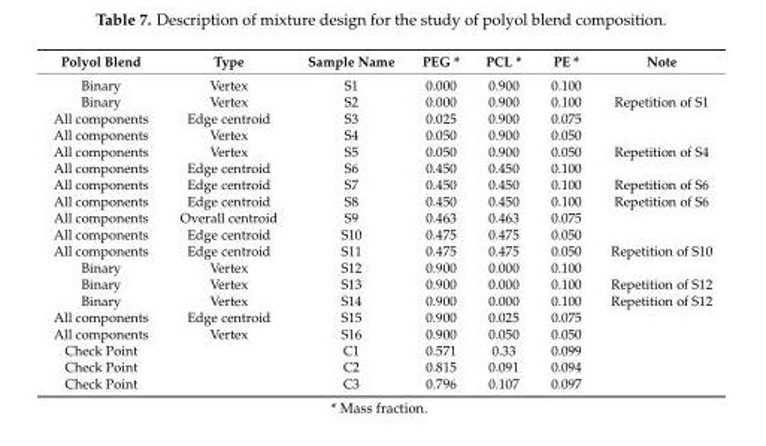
<table><thead><tr><td>Polyol Blend</td><td>Type</td><td>Sample Name</td><td>PEG *</td><td>PCL *</td><td>PE *</td><td>Note</td></tr></thead><tbody><tr><td>Binary</td><td>Vertex</td><td>S1</td><td>0.000</td><td>0.900</td><td>0.100</td><td></td></tr><tr><td>Binary</td><td>Vertex</td><td>S2</td><td>0.000</td><td>0.900</td><td>0.100</td><td>Repetition of S1</td></tr><tr><td>All components</td><td>Edge centroid</td><td>S3</td><td>0.025</td><td>0.900</td><td>0.075</td><td></td></tr><tr><td>All components</td><td>Vertex</td><td>S4</td><td>0.050</td><td>0.900</td><td>0.050</td><td></td></tr><tr><td>All components</td><td>Vertex</td><td>S5</td><td>0.050</td><td>0.900</td><td>0.050</td><td>Repetition of S4</td></tr><tr><td>All components</td><td>Edge centroid</td><td>S6</td><td>0.450</td><td>0.450</td><td>0.100</td><td></td></tr><tr><td>All components</td><td>Edge centroid</td><td>S7</td><td>0.450</td><td>0.450</td><td>0.100</td><td>Repetition of S6</td></tr><tr><td>All components</td><td>Edge centroid</td><td>S8</td><td>0.450</td><td>0.450</td><td>0.100</td><td>Repetition of S6</td></tr><tr><td>All components</td><td>Overall centroid</td><td>S9</td><td>0.463</td><td>0.463</td><td>0.075</td><td></td></tr><tr><td>All components</td><td>Edge centroid</td><td>S10</td><td>0.475</td><td>0.475</td><td>0.050</td><td></td></tr><tr><td>All components</td><td>Edge centroid</td><td>S11</td><td>0.475</td><td>0.475</td><td>0.050</td><td>Repetition of S10</td></tr><tr><td>Binary</td><td>Vertex</td><td>S12</td><td>0.900</td><td>0.000</td><td>0.100</td><td></td></tr><tr><td>Binary</td><td>Vertex</td><td>S13</td><td>0.900</td><td>0.000</td><td>0.100</td><td>Repetition of S12</td></tr><tr><td>Binary</td><td>Vertex</td><td>S14</td><td>0.900</td><td>0.000</td><td>0.100</td><td>Repetition of S12</td></tr><tr><td>All components</td><td>Edge centroid</td><td>S15</td><td>0.900</td><td>0.025</td><td>0.075</td><td></td></tr><tr><td>All components</td><td>Vertex</td><td>S16</td><td>0.900</td><td>0.050</td><td>0.050</td><td></td></tr><tr><td>Check Point</td><td></td><td>C1</td><td>0.571</td><td>0.33</td><td>0.099</td><td></td></tr><tr><td>Check Point</td><td></td><td>C2</td><td>0.815</td><td>0.091</td><td>0.094</td><td></td></tr><tr><td>Check Point</td><td></td><td>C3</td><td>0.796</td><td>0.107</td><td>0.097</td><td></td></tr></tbody></table>